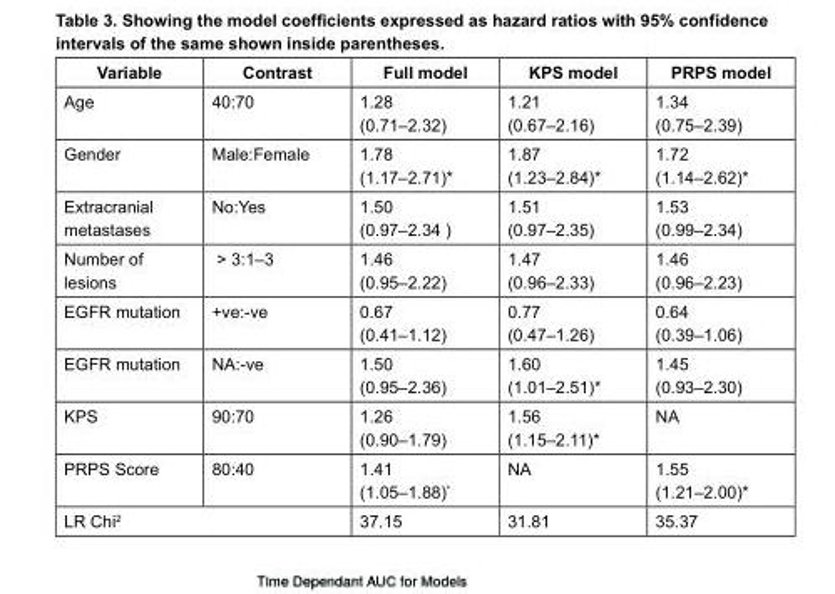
<table><thead><tr><td>Variable</td><td>Contrast</td><td>Full model</td><td>KPS model</td><td>PRPS model</td></tr></thead><tbody><tr><td>Age</td><td>40:70</td><td>1.28 (0.71–2.32)</td><td>1.21 (0.67–2.16)</td><td>1.34 (0.75–2.39)</td></tr><tr><td>Gender</td><td>Male:Female</td><td>1.78 (1.17–2.71)*</td><td>1.87 (1.23–2.84)*</td><td>1.72 (1.14–2.62)*</td></tr><tr><td>Extracranial metastases</td><td>No:Yes</td><td>1.50 (0.97–2.34 )</td><td>1.51 (0.97–2.35)</td><td>1.53 (0.99–2.34)</td></tr><tr><td>Number of lesions</td><td>&gt; 3:1–3</td><td>1.46 (0.95–2.22)</td><td>1.47 (0.96–2.33)</td><td>1.46 (0.96–2.23)</td></tr><tr><td>EGFR mutation</td><td>+ve:-ve</td><td>0.67 (0.41–1.12)</td><td>0.77 (0.47–1.26)</td><td>0.64 (0.39–1.06)</td></tr><tr><td>EGFR mutation</td><td>NA:-ve</td><td>1.50 (0.95–2.36)</td><td>1.60 (1.01–2.51)*</td><td>1.45 (0.93–2.30)</td></tr><tr><td>KPS</td><td>90:70</td><td>1.26 (0.90–1.79)</td><td>1.56 (1.15–2.11)*</td><td>NA</td></tr><tr><td>PRPS Score</td><td>80:40</td><td>1.41 (1.05–1.88)*</td><td>NA</td><td>1.55 (1.21–2.00)*</td></tr><tr><td colspan="2">LR Chi<sup>2</sup></td><td>37.15</td><td>31.81</td><td>35.37</td></tr></tbody></table>